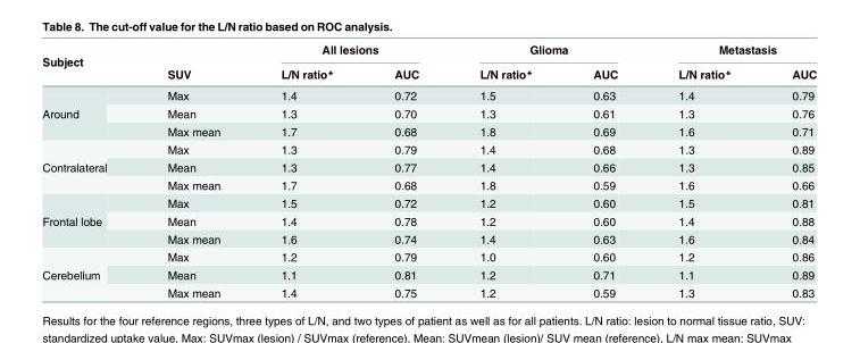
<table><thead><tr><td rowspan="2">Subject</td><td rowspan="2">SUV</td><td colspan="2">All lesions</td><td colspan="2">Glioma</td><td colspan="2">Metastasis</td></tr><tr><td>L/N ratio*</td><td>AUC</td><td>L/N ratio*</td><td>AUC</td><td>L/N ratio*</td><td>AUC</td></tr></thead><tbody><tr><td rowspan="3">Around</td><td>Max</td><td>1.4</td><td>0.72</td><td>1.5</td><td>0.63</td><td>1.4</td><td>0.79</td></tr><tr><td>Mean</td><td>1.3</td><td>0.70</td><td>1.3</td><td>0.61</td><td>1.3</td><td>0.76</td></tr><tr><td>Max mean</td><td>1.7</td><td>0.68</td><td>1.8</td><td>0.69</td><td>1.6</td><td>0.71</td></tr><tr><td rowspan="3">Contralateral</td><td>Max</td><td>1.3</td><td>0.79</td><td>1.4</td><td>0.68</td><td>1.3</td><td>0.89</td></tr><tr><td>Mean</td><td>1.3</td><td>0.77</td><td>1.4</td><td>0.66</td><td>1.3</td><td>0.85</td></tr><tr><td>Max mean</td><td>1.7</td><td>0.68</td><td>1.8</td><td>0.59</td><td>1.6</td><td>0.66</td></tr><tr><td rowspan="3">Frontal lobe</td><td>Max</td><td>1.5</td><td>0.72</td><td>1.2</td><td>0.60</td><td>1.5</td><td>0.81</td></tr><tr><td>Mean</td><td>1.4</td><td>0.78</td><td>1.2</td><td>0.60</td><td>1.4</td><td>0.88</td></tr><tr><td>Max mean</td><td>1.6</td><td>0.74</td><td>1.4</td><td>0.63</td><td>1.6</td><td>0.84</td></tr><tr><td rowspan="3">Cerebellum</td><td>Max</td><td>1.2</td><td>0.79</td><td>1.0</td><td>0.60</td><td>1.2</td><td>0.86</td></tr><tr><td>Mean</td><td>1.1</td><td>0.81</td><td>1.2</td><td>0.71</td><td>1.1</td><td>0.89</td></tr><tr><td>Max mean</td><td>1.4</td><td>0.75</td><td>1.2</td><td>0.59</td><td>1.3</td><td>0.83</td></tr></tbody></table>